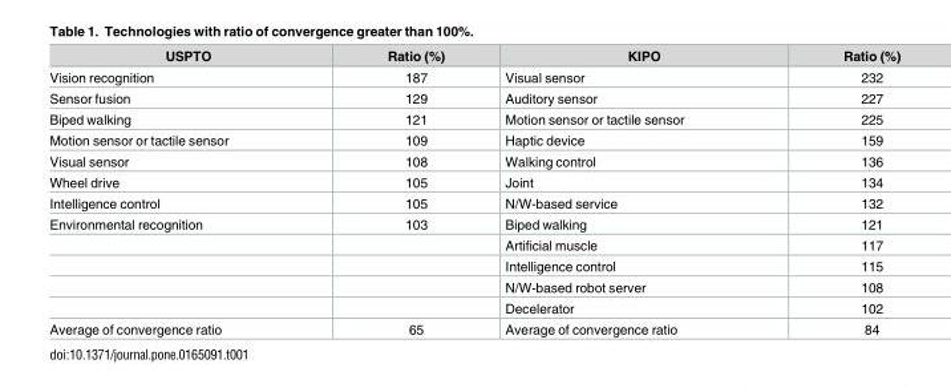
<table><thead><tr><td>USPTO</td><td>Ratio (%)</td><td>KIPO</td><td>Ratio (%)</td></tr></thead><tbody><tr><td>Vision recognition</td><td>187</td><td>Visual sensor</td><td>232</td></tr><tr><td>Sensor fusion</td><td>129</td><td>Auditory sensor</td><td>227</td></tr><tr><td>Biped walking</td><td>121</td><td>Motion sensor or tactile sensor</td><td>225</td></tr><tr><td>Motion sensor or tactile sensor</td><td>109</td><td>Haptic device</td><td>159</td></tr><tr><td>Visual sensor</td><td>108</td><td>Walking control</td><td>136</td></tr><tr><td>Wheel drive</td><td>105</td><td>Joint</td><td>134</td></tr><tr><td>Intelligence control</td><td>105</td><td>N/W-based service</td><td>132</td></tr><tr><td rowspan="5">Environmental recognition</td><td>103</td><td>Biped walking</td><td>121</td></tr><tr><td></td><td>Artificial muscle</td><td>117</td></tr><tr><td></td><td>Intelligence control</td><td>115</td></tr><tr><td></td><td>N/W-based robot server</td><td>108</td></tr><tr><td></td><td>Decelerator</td><td>102</td></tr><tr><td>Average of convergence ratio</td><td>65</td><td>Average of convergence ratio</td><td>84</td></tr></tbody></table>